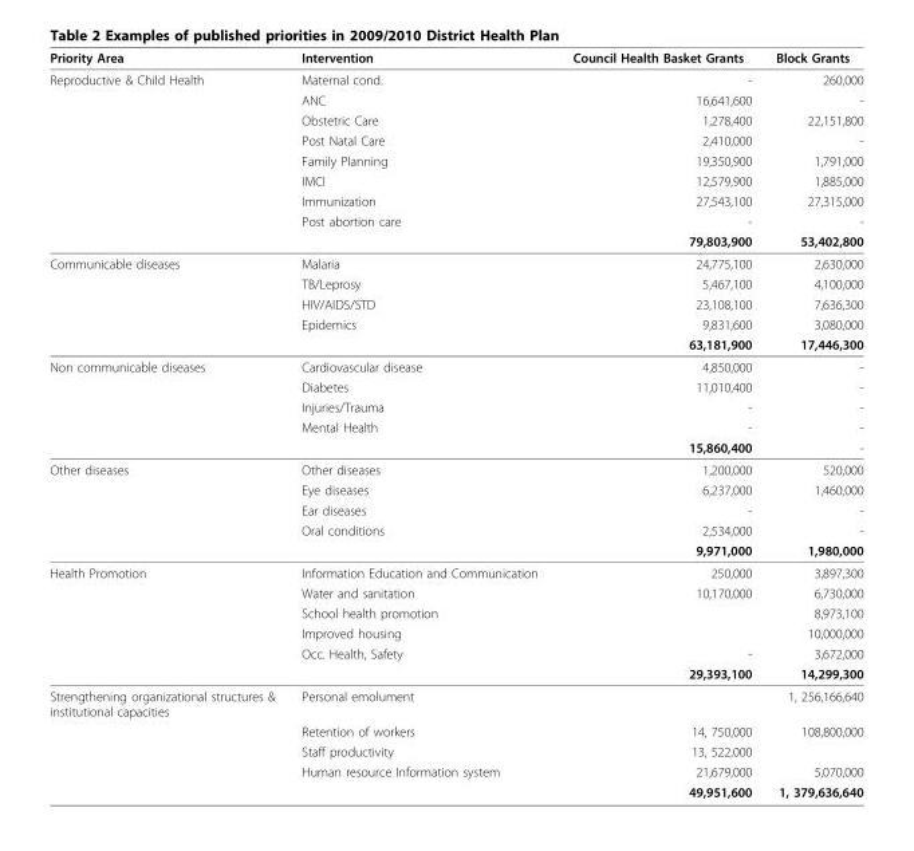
<table><thead><tr><td>Priority Area</td><td>Intervention</td><td>Council Health Basket Grants</td><td>Block Grants</td></tr></thead><tbody><tr><td rowspan="9">Reproductive &amp; Child Health</td><td>Maternal cond.</td><td>-</td><td>260,000</td></tr><tr><td>ANC</td><td>16,641,600</td><td>-</td></tr><tr><td>Obstetric Care</td><td>1,278,400</td><td>22,151,800</td></tr><tr><td>Post Natal Care</td><td>2,410,000</td><td>-</td></tr><tr><td>Family Planning</td><td>19,350,900</td><td>1,791,000</td></tr><tr><td>IMCI</td><td>12,579,900</td><td>1,885,000</td></tr><tr><td>Immunization</td><td>27,543,100</td><td>27,315,000</td></tr><tr><td>Post abortion care</td><td>-</td><td>-</td></tr><tr><td></td><td>79,803,900</td><td>53,402,800</td></tr><tr><td rowspan="5">Communicable diseases</td><td>Malaria</td><td>24,775,100</td><td>2,630,000</td></tr><tr><td>TB/Leprosy</td><td>5,467,100</td><td>4,100,000</td></tr><tr><td>HIV/AIDS/STD</td><td>23,108,100</td><td>7,636,300</td></tr><tr><td>Epidemics</td><td>9,831,600</td><td>3,080,000</td></tr><tr><td></td><td>63,181,900</td><td>17,446,300</td></tr><tr><td rowspan="5">Non communicable diseases</td><td>Cardiovascular disease</td><td>4,850,000</td><td>-</td></tr><tr><td>Diabetes</td><td>11,010,400</td><td>-</td></tr><tr><td>Injuries/Trauma</td><td>-</td><td>-</td></tr><tr><td>Mental Health</td><td>-</td><td>-</td></tr><tr><td></td><td>15,860,400</td><td>-</td></tr><tr><td rowspan="5">Other diseases</td><td>Other diseases</td><td>1,200,000</td><td>520,000</td></tr><tr><td>Eye diseases</td><td>6,237,000</td><td>1,460,000</td></tr><tr><td>Ear diseases</td><td>-</td><td>-</td></tr><tr><td>Oral conditions</td><td>2,534,000</td><td>-</td></tr><tr><td></td><td>9,971,000</td><td>1,980,000</td></tr><tr><td rowspan="6">Health Promotion</td><td>Information Education and Communication</td><td>250,000</td><td>3,897,300</td></tr><tr><td>Water and sanitation</td><td>10,170,000</td><td>6,730,000</td></tr><tr><td colspan="2">School health promotion</td><td>8,973,100</td></tr><tr><td colspan="2">Improved housing</td><td>10,000,000</td></tr><tr><td>Occ. Health, Safety</td><td>-</td><td>3,672,000</td></tr><tr><td></td><td>29,393,100</td><td>14,299,300</td></tr><tr><td rowspan="5">Strengthening organizational structures &amp; institutional capacities</td><td>Personal emolument</td><td></td><td>1, 256,166,640</td></tr><tr><td>Retention of workers</td><td>14, 750,000</td><td>108,800,000</td></tr><tr><td>Staff productivity</td><td>13, 522,000</td><td></td></tr><tr><td>Human resource Information system</td><td>21,679,000</td><td>5,070,000</td></tr><tr><td></td><td>49,951,600</td><td>1, 379,636,640</td></tr></tbody></table>